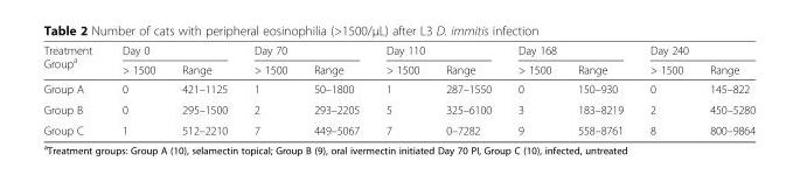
<table><thead><tr><td rowspan="2">Treatment Group<sup>a</sup></td><td colspan="2">Day 0</td><td colspan="2">Day 70</td><td colspan="2">Day 110</td><td colspan="2">Day 168</td><td colspan="2">Day 240</td></tr><tr><td>&gt; 1500</td><td>Range</td><td>&gt; 1500</td><td>Range</td><td>&gt; 1500</td><td>Range</td><td>&gt; 1500</td><td>Range</td><td>&gt; 1500</td><td>Range</td></tr></thead><tbody><tr><td>Group A</td><td>0</td><td>421–1125</td><td>1</td><td>50–1800</td><td>1</td><td>287–1550</td><td>0</td><td>150–930</td><td>0</td><td>145–822</td></tr><tr><td>Group B</td><td>0</td><td>295–1500</td><td>2</td><td>293–2205</td><td>5</td><td>325–6100</td><td>3</td><td>183–8219</td><td>2</td><td>450–5280</td></tr><tr><td>Group C</td><td>1</td><td>512–2210</td><td>7</td><td>449–5067</td><td>7</td><td>0–7282</td><td>9</td><td>558–8761</td><td>8</td><td>800–9864</td></tr></tbody></table>